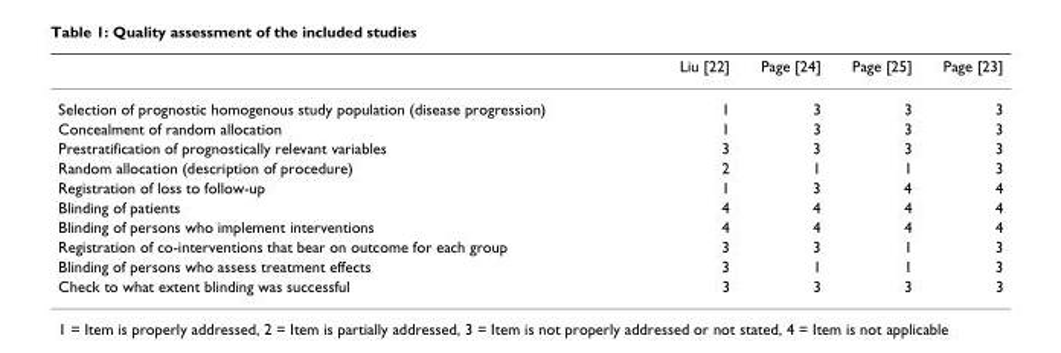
<table><thead><tr><td></td><td>Liu [22]</td><td>Page [24]</td><td>Page [25]</td><td>Page [23]</td></tr></thead><tbody><tr><td>Selection of prognostic homogenous study population (disease progression)</td><td>1</td><td>3</td><td>3</td><td>3</td></tr><tr><td>Concealment of random allocation</td><td>1</td><td>3</td><td>3</td><td>3</td></tr><tr><td>Prestratification of prognostically relevant variables</td><td>3</td><td>3</td><td>3</td><td>3</td></tr><tr><td>Random allocation (description of procedure)</td><td>2</td><td>1</td><td>1</td><td>3</td></tr><tr><td>Registration of loss to follow-up</td><td>1</td><td>3</td><td>4</td><td>4</td></tr><tr><td>Blinding of patients</td><td>4</td><td>4</td><td>4</td><td>4</td></tr><tr><td>Blinding of persons who implement interventions</td><td>4</td><td>4</td><td>4</td><td>4</td></tr><tr><td>Registration of co-interventions that bear on outcome for each group</td><td>3</td><td>3</td><td>1</td><td>3</td></tr><tr><td>Blinding of persons who assess treatment effects</td><td>3</td><td>1</td><td>1</td><td>3</td></tr><tr><td>Check to what extent blinding was successful</td><td>3</td><td>3</td><td>3</td><td>3</td></tr></tbody></table>